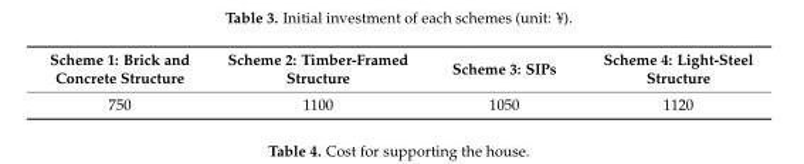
<table><thead><tr><td>Scheme 1: Brick and Concrete Structure</td><td>Scheme 2: Timber-Framed Structure</td><td>Scheme 3: SIPs</td><td>Scheme 4: Light-Steel Structure</td></tr></thead><tbody><tr><td>750</td><td>1100</td><td>1050</td><td>1120</td></tr></tbody></table>